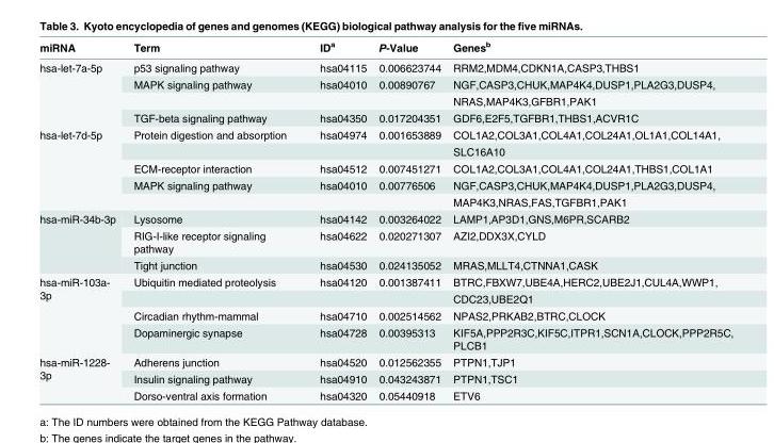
<table><thead><tr><td>miRNA</td><td>Term</td><td>ID<sup>a</sup></td><td>P-Value</td><td>Genes<sup>b</sup></td></tr></thead><tbody><tr><td rowspan="4">hsa-let-7a-5p</td><td>p53 signaling pathway</td><td>hsa04115</td><td>0.006623744</td><td>RRM2,MDM4,CDKN1A,CASP3,THBS1</td></tr><tr><td>MAPK signaling pathway</td><td>hsa04010</td><td>0.00890767</td><td>NGF,CASP3,CHUK,MAP4K4,DUSP1,PLA2G3,DUSP4,</td></tr><tr><td></td><td></td><td></td><td>NRAS,MAP4K3,GFBR1,PAK1</td></tr><tr><td>TGF-beta signaling pathway</td><td>hsa04350</td><td>0.017204351</td><td>GDF6,E2F5,TGFBR1,THBS1,ACVR1C</td></tr><tr><td rowspan="5">hsa-let-7d-5p</td><td>Protein digestion and absorption</td><td>hsa04974</td><td>0.001653889</td><td>COL1A2,COL3A1,COL4A1,COL24A1,OL1A1,COL14A1,</td></tr><tr><td></td><td></td><td></td><td>SLC16A10</td></tr><tr><td>ECM-receptor interaction</td><td>hsa04512</td><td>0.007451271</td><td>COL1A2,COL3A1,COL4A1,COL24A1,THBS1,COL1A1</td></tr><tr><td>MAPK signaling pathway</td><td>hsa04010</td><td>0.00776506</td><td>NGF,CASP3,CHUK,MAP4K4,DUSP1,PLA2G3,DUSP4,</td></tr><tr><td></td><td></td><td></td><td>MAP4K3,NRAS,FAS,TGFBR1,PAK1</td></tr><tr><td rowspan="3">hsa-miR-34b-3p</td><td>Lysosome</td><td>hsa04142</td><td>0.003264022</td><td>LAMP1,AP3D1,GNS,M6PR,SCARB2</td></tr><tr><td>RIG-I-like receptor signaling pathway</td><td>hsa04622</td><td>0.020271307</td><td>AZI2,DDX3X,CYLD</td></tr><tr><td>Tight junction</td><td>hsa04530</td><td>0.024135052</td><td>MRAS,MLLT4,CTNNA1,CASK</td></tr><tr><td rowspan="4">hsa-miR-103a- 3p</td><td>Ubiquitin mediated proteolysis</td><td>hsa04120</td><td>0.001387411</td><td>BTRC,FBXW7,UBE4A,HERC2,UBE2J1,CUL4A,WWP1,</td></tr><tr><td></td><td></td><td></td><td>CDC23,UBE2Q1</td></tr><tr><td>Circadian rhythm-mammal</td><td>hsa04710</td><td>0.002514562</td><td>NPAS2,PRKAB2,BTRC,CLOCK</td></tr><tr><td>Dopaminergic synapse</td><td>hsa04728</td><td>0.00395313</td><td>KIF5A,PPP2R3C,KIF5C,ITPR1,SCN1A,CLOCK,PPP2R5C, PLCB1</td></tr><tr><td rowspan="3">hsa-miR-1228- 3p</td><td>Adherens junction</td><td>hsa04520</td><td>0.012562355</td><td>PTPN1,TJP1</td></tr><tr><td>Insulin signaling pathway</td><td>hsa04910</td><td>0.043243871</td><td>PTPN1,TSC1</td></tr><tr><td>Dorso-ventral axis formation</td><td>hsa04320</td><td>0.05440918</td><td>ETV6</td></tr></tbody></table>